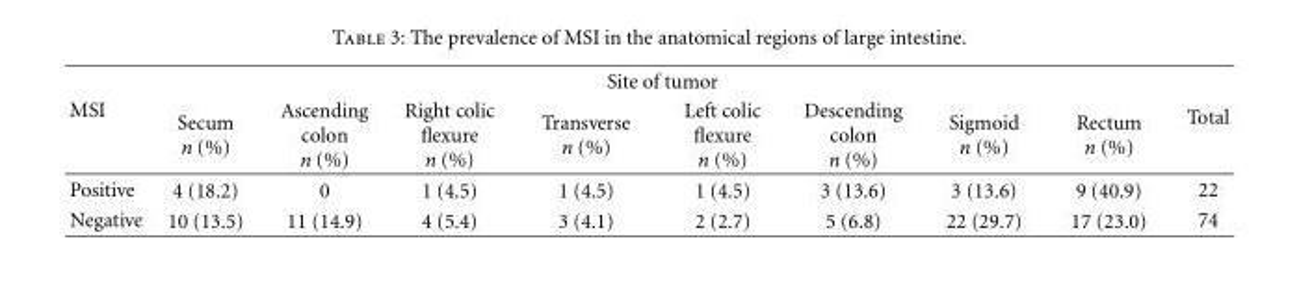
<table><thead><tr><td rowspan="2">MSI</td><td colspan="8">Site of tumor</td><td rowspan="2">Total</td></tr><tr><td>Secum n (%)</td><td>Ascending colon n (%)</td><td>Right colic flexure n (%)</td><td>Transverse n (%)</td><td>Left colic flexure n (%)</td><td>Descending colon n (%)</td><td>Sigmoid n (%)</td><td>Rectum n (%)</td></tr></thead><tbody><tr><td>Positive</td><td>4 (18.2)</td><td>0</td><td>1 (4.5)</td><td>1 (4.5)</td><td>1 (4.5)</td><td>3 (13.6)</td><td>3 (13.6)</td><td>9 (40.9)</td><td>22</td></tr><tr><td>Negative</td><td>10 (13.5)</td><td>11 (14.9)</td><td>4 (5.4)</td><td>3 (4.1)</td><td>2 (2.7)</td><td>5 (6.8)</td><td>22 (29.7)</td><td>17 (23.0)</td><td>74</td></tr></tbody></table>